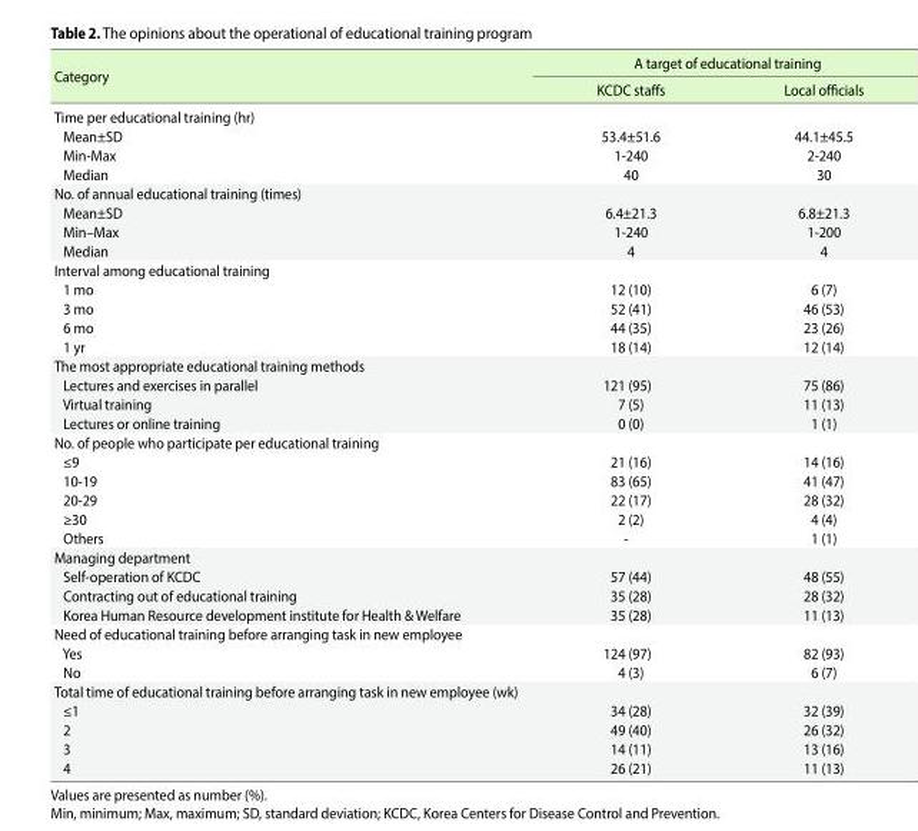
<table><thead><tr><td rowspan="2">Category</td><td colspan="2">A target of educational training</td></tr><tr><td>KCDC staffs</td><td>Local officials</td></tr></thead><tbody><tr><td colspan="3">Time per educational training (hr)</td></tr><tr><td>Mean±SD</td><td>53.4±51.6</td><td>44.1±45.5</td></tr><tr><td>Min-Max</td><td>1-240</td><td>2-240</td></tr><tr><td>Median</td><td>40</td><td>30</td></tr><tr><td colspan="3">No. of annual educational training (times)</td></tr><tr><td>Mean±SD</td><td>6.4±21.3</td><td>6.8±21.3</td></tr><tr><td>Min–Max</td><td>1-240</td><td>1-200</td></tr><tr><td>Median</td><td>4</td><td>4</td></tr><tr><td colspan="3">Interval among educational training</td></tr><tr><td>1 mo</td><td>12 (10)</td><td>6 (7)</td></tr><tr><td>3 mo</td><td>52 (41)</td><td>46 (53)</td></tr><tr><td>6 mo</td><td>44 (35)</td><td>23 (26)</td></tr><tr><td>1 yr</td><td>18 (14)</td><td>12 (14)</td></tr><tr><td colspan="3">The most appropriate educational training methods</td></tr><tr><td>Lectures and exercises in parallel</td><td>121 (95)</td><td>75 (86)</td></tr><tr><td>Virtual training</td><td>7 (5)</td><td>11 (13)</td></tr><tr><td>Lectures or online training</td><td>0 (0)</td><td>1 (1)</td></tr><tr><td colspan="3">No. of people who participate per educational training</td></tr><tr><td>≤9</td><td>21 (16)</td><td>14 (16)</td></tr><tr><td>10-19</td><td>83 (65)</td><td>41 (47)</td></tr><tr><td>20-29</td><td>22 (17)</td><td>28 (32)</td></tr><tr><td>≥30</td><td>2 (2)</td><td>4 (4)</td></tr><tr><td>Others</td><td>-</td><td>1 (1)</td></tr><tr><td colspan="3">Managing department</td></tr><tr><td>Self-operation of KCDC</td><td>57 (44)</td><td>48 (55)</td></tr><tr><td>Contracting out of educational training</td><td>35 (28)</td><td>28 (32)</td></tr><tr><td>Korea Human Resource development institute for Health &amp; Welfare</td><td>35 (28)</td><td>11 (13)</td></tr><tr><td colspan="3">Need of educational training before arranging task in new employee</td></tr><tr><td>Yes</td><td>124 (97)</td><td>82 (93)</td></tr><tr><td>No</td><td>4 (3)</td><td>6 (7)</td></tr><tr><td colspan="3">Total time of educational training before arranging task in new employee (wk)</td></tr><tr><td>≤1</td><td>34 (28)</td><td>32 (39)</td></tr><tr><td>2</td><td>49 (40)</td><td>26 (32)</td></tr><tr><td>3</td><td>14 (11)</td><td>13 (16)</td></tr><tr><td>4</td><td>26 (21)</td><td>11 (13)</td></tr></tbody></table>